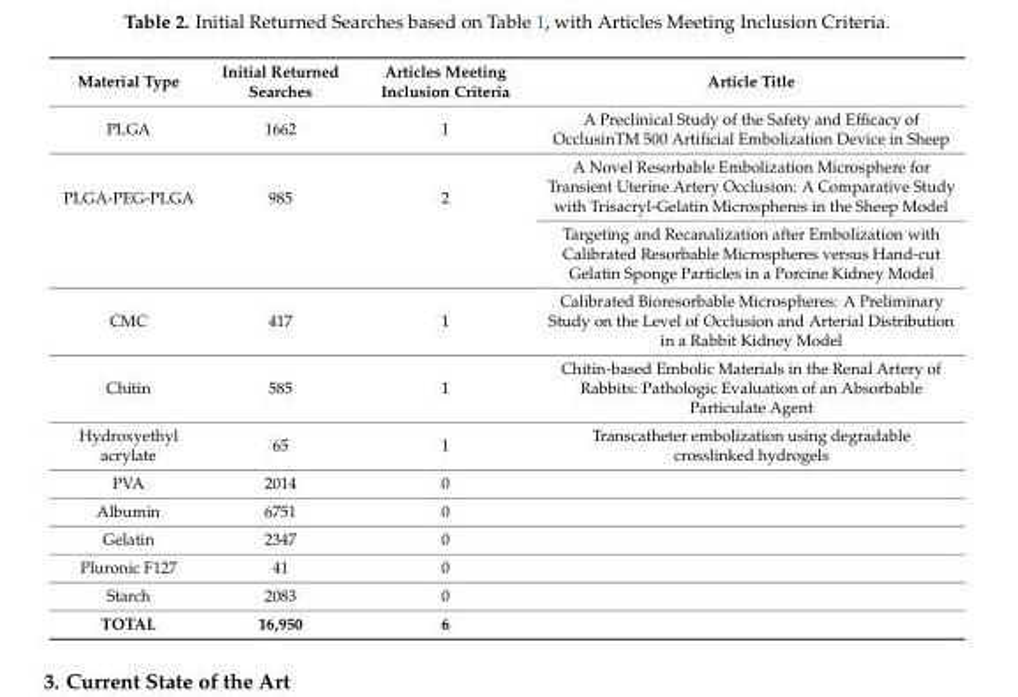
<table><thead><tr><td>Material Type</td><td>Initial Returned Searches</td><td>Articles Meeting Inclusion Criteria</td><td>Article Title</td></tr></thead><tbody><tr><td>PLGA</td><td>1662</td><td>1</td><td>A Preclinical Study of the Safety and Efficacy of OcclusinTM 500 Artificial Embolization Device in Sheep</td></tr><tr><td rowspan="2">PLGA-PEG-PLGA</td><td rowspan="2">985</td><td rowspan="2">2</td><td>A Novel Resorbable Embolization Microsphere for Transient Uterine Artery Occlusion: A Comparative Study with Trisacryl-Gelatin Microspheres in the Sheep Model</td></tr><tr><td>Targeting and Recanalization after Embolization with Calibrated Resorbable Microspheres versus Hand-cut Gelatin Sponge Particles in a Porcine Kidney Model</td></tr><tr><td>CMC</td><td>417</td><td>1</td><td>Calibrated Bioresorbable Microspheres: A Preliminary Study on the Level of Occlusion and Arterial Distribution in a Rabbit Kidney Model</td></tr><tr><td>Chitin</td><td>585</td><td>1</td><td>Chitin-based Embolic Materials in the Renal Artery of Rabbits: Pathologic Evaluation of an Absorbable Particulate Agent</td></tr><tr><td>Hydroxyethyl acrylate</td><td>65</td><td>1</td><td>Transcatheter embolization using degradable crosslinked hydrogels</td></tr><tr><td>PVA</td><td>2014</td><td>0</td><td></td></tr><tr><td>Albumin</td><td>6751</td><td>0</td><td></td></tr><tr><td>Gelatin</td><td>2347</td><td>0</td><td></td></tr><tr><td>Pluronic F127</td><td>41</td><td>0</td><td></td></tr><tr><td>Starch</td><td>2083</td><td>0</td><td></td></tr><tr><td>TOTAL</td><td>16,950</td><td>6</td><td></td></tr></tbody></table>